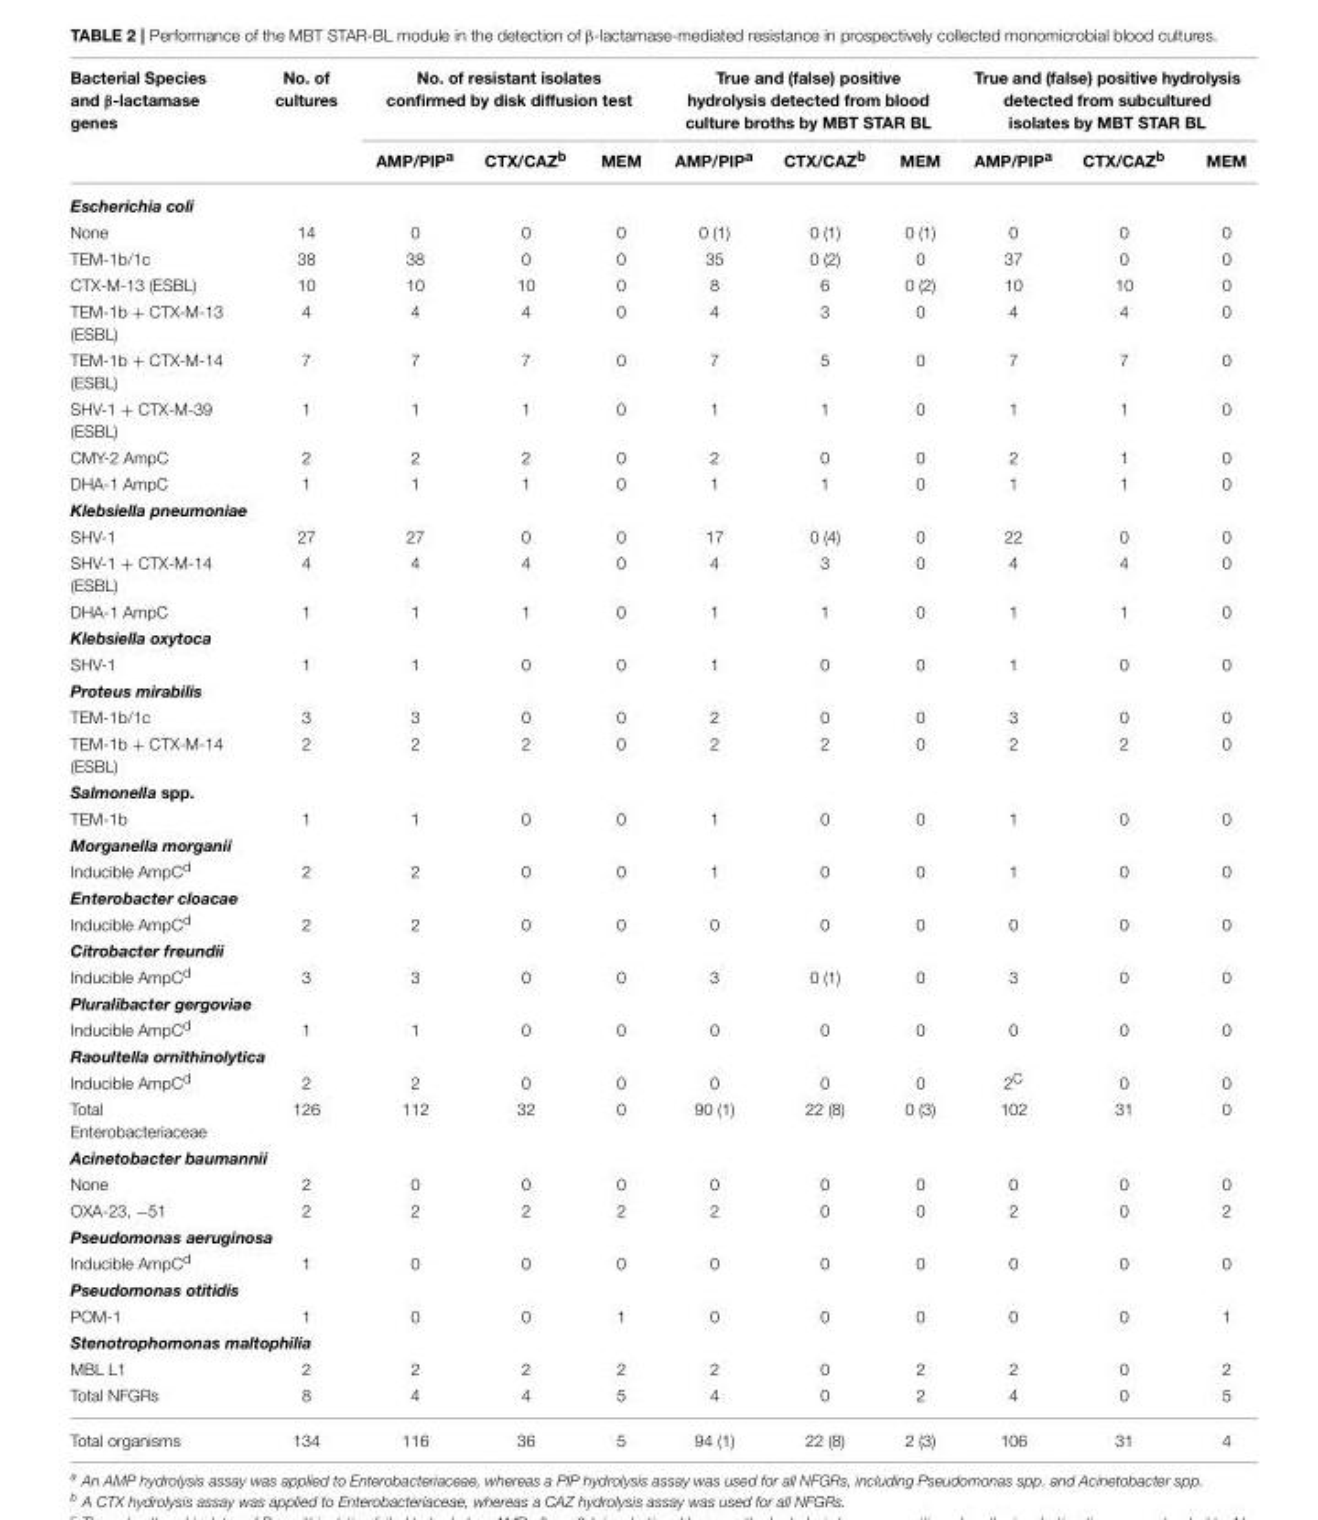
<table><thead><tr><td rowspan="2">Bacterial Species and β-lactamase genes</td><td rowspan="2">No. of cultures</td><td colspan="3">No. of resistant isolates confirmed by disk diffusion test</td><td colspan="3">True and (false) positive hydrolysis detected from blood culture broths by MBT STAR BL</td><td colspan="3">True and (false) positive hydrolysis detected from subcultured isolates by MBT STAR BL</td></tr><tr><td>AMP/PIP<sup>a</sup></td><td>CTX/CAZ<sup>b</sup></td><td>MEM</td><td>AMP/PIP<sup>a</sup></td><td>CTX/CAZ<sup>b</sup></td><td>MEM</td><td>AMP/PIP<sup>a</sup></td><td>CTX/CAZ<sup>b</sup></td><td>MEM</td></tr></thead><tbody><tr><td colspan="11">Escherichia coli</td></tr><tr><td>None</td><td>14</td><td>0</td><td>0</td><td>0</td><td>0 (1)</td><td>0 (1)</td><td>0 (1)</td><td>0</td><td>0</td><td>0</td></tr><tr><td>TEM-1b/1c</td><td>38</td><td>38</td><td>0</td><td>0</td><td>35</td><td>0 (2)</td><td>0</td><td>37</td><td>0</td><td>0</td></tr><tr><td>CTX-M-13 (ESBL)</td><td>10</td><td>10</td><td>10</td><td>0</td><td>8</td><td>6</td><td>0 (2)</td><td>10</td><td>10</td><td>0</td></tr><tr><td>TEM-1b + CTX-M-13 (ESBL)</td><td>4</td><td>4</td><td>4</td><td>0</td><td>4</td><td>3</td><td>0</td><td>4</td><td>4</td><td>0</td></tr><tr><td>TEM-1b + CTX-M-14 (ESBL)</td><td>7</td><td>7</td><td>7</td><td>0</td><td>7</td><td>5</td><td>0</td><td>7</td><td>7</td><td>0</td></tr><tr><td>SHV-1 + CTX-M-39 (ESBL)</td><td>1</td><td>1</td><td>1</td><td>0</td><td>1</td><td>1</td><td>0</td><td>1</td><td>1</td><td>0</td></tr><tr><td>CMY-2 AmpC</td><td>2</td><td>2</td><td>2</td><td>0</td><td>2</td><td>0</td><td>0</td><td>2</td><td>1</td><td>0</td></tr><tr><td>DHA-1 AmpC</td><td>1</td><td>1</td><td>1</td><td>0</td><td>1</td><td>1</td><td>0</td><td>1</td><td>1</td><td>0</td></tr><tr><td colspan="11">Klebsiella pneumoniae</td></tr><tr><td>SHV-1</td><td>27</td><td>27</td><td>0</td><td>0</td><td>17</td><td>0 (4)</td><td>0</td><td>22</td><td>0</td><td>0</td></tr><tr><td>SHV-1 + CTX-M-14 (ESBL)</td><td>4</td><td>4</td><td>4</td><td>0</td><td>4</td><td>3</td><td>0</td><td>4</td><td>4</td><td>0</td></tr><tr><td>DHA-1 AmpC</td><td>1</td><td>1</td><td>1</td><td>0</td><td>1</td><td>1</td><td>0</td><td>1</td><td>1</td><td>0</td></tr><tr><td colspan="11">Klebsiella oxytoca</td></tr><tr><td>SHV-1</td><td>1</td><td>1</td><td>0</td><td>0</td><td>1</td><td>0</td><td>0</td><td>1</td><td>0</td><td>0</td></tr><tr><td colspan="11">Proteus mirabilis</td></tr><tr><td>TEM-1b/1c</td><td>3</td><td>3</td><td>0</td><td>0</td><td>2</td><td>0</td><td>0</td><td>3</td><td>0</td><td>0</td></tr><tr><td>TEM-1b + CTX-M-14 (ESBL)</td><td>2</td><td>2</td><td>2</td><td>0</td><td>2</td><td>2</td><td>0</td><td>2</td><td>2</td><td>0</td></tr><tr><td colspan="11">Salmonella spp.</td></tr><tr><td>TEM-1b</td><td>1</td><td>1</td><td>0</td><td>0</td><td>1</td><td>0</td><td>0</td><td>1</td><td>0</td><td>0</td></tr><tr><td colspan="11">Morganella morganii</td></tr><tr><td>Inducible AmpC<sup>d</sup></td><td>2</td><td>2</td><td>0</td><td>0</td><td>1</td><td>0</td><td>0</td><td>1</td><td>0</td><td>0</td></tr><tr><td colspan="11">Enterobacter cloacae</td></tr><tr><td>Inducible AmpC<sup>d</sup></td><td>2</td><td>2</td><td>0</td><td>0</td><td>0</td><td>0</td><td>0</td><td>0</td><td>0</td><td>0</td></tr><tr><td colspan="11">Citrobacter freundii</td></tr><tr><td>Inducible AmpC<sup>d</sup></td><td>3</td><td>3</td><td>0</td><td>0</td><td>3</td><td>0 (1)</td><td>0</td><td>3</td><td>0</td><td>0</td></tr><tr><td colspan="11">Pluralibacter gergoviae</td></tr><tr><td>Inducible AmpC<sup>d</sup></td><td>1</td><td>1</td><td>0</td><td>0</td><td>0</td><td>0</td><td>0</td><td>0</td><td>0</td><td>0</td></tr><tr><td colspan="11">Raoultella ornithinolytica</td></tr><tr><td>Inducible AmpC<sup>d</sup></td><td>2</td><td>2</td><td>0</td><td>0</td><td>0</td><td>0</td><td>0</td><td>2<sup>C</sup></td><td>0</td><td>0</td></tr><tr><td>Total Enterobacteriaceae</td><td>126</td><td>112</td><td>32</td><td>0</td><td>90 (1)</td><td>22 (8)</td><td>0 (3)</td><td>102</td><td>31</td><td>0</td></tr><tr><td colspan="11">Acinetobacter baumannii</td></tr><tr><td>None</td><td>2</td><td>0</td><td>0</td><td>0</td><td>0</td><td>0</td><td>0</td><td>0</td><td>0</td><td>0</td></tr><tr><td>OXA-23, −51</td><td>2</td><td>2</td><td>2</td><td>2</td><td>2</td><td>0</td><td>0</td><td>2</td><td>0</td><td>2</td></tr><tr><td colspan="11">Pseudomonas aeruginosa</td></tr><tr><td>Inducible AmpC<sup>d</sup></td><td>1</td><td>0</td><td>0</td><td>0</td><td>0</td><td>0</td><td>0</td><td>0</td><td>0</td><td>0</td></tr><tr><td colspan="11">Pseudomonas otitidis</td></tr><tr><td>POM-1</td><td>1</td><td>0</td><td>0</td><td>1</td><td>0</td><td>0</td><td>0</td><td>0</td><td>0</td><td>1</td></tr><tr><td colspan="11">Stenotrophomonas maltophilia</td></tr><tr><td>MBL L1</td><td>2</td><td>2</td><td>2</td><td>2</td><td>2</td><td>0</td><td>2</td><td>2</td><td>0</td><td>2</td></tr><tr><td>Total NFGRs</td><td>8</td><td>4</td><td>4</td><td>5</td><td>4</td><td>0</td><td>2</td><td>4</td><td>0</td><td>5</td></tr><tr><td>Total organisms</td><td>134</td><td>116</td><td>36</td><td>5</td><td>94 (1)</td><td>22 (8)</td><td>2 (3)</td><td>106</td><td>31</td><td>4</td></tr></tbody></table>